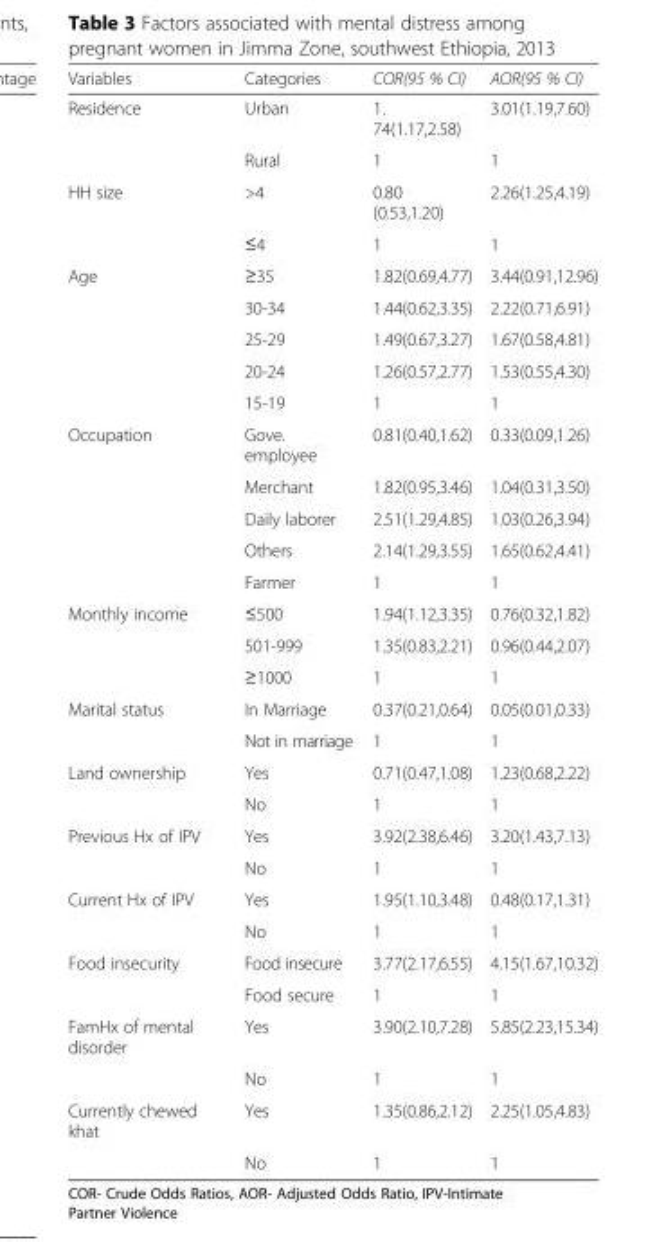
<table><thead><tr><td>Variables</td><td>Categories</td><td>COR(95 % CI)</td><td>AOR(95 % CI)</td></tr></thead><tbody><tr><td rowspan="2">Residence</td><td>Urban</td><td>1. 74(1.17,2.58)</td><td>3.01(1.19,7.60)</td></tr><tr><td>Rural</td><td>1</td><td>1</td></tr><tr><td rowspan="2">HH size</td><td>&gt;4</td><td>0.80 (0.53,1.20)</td><td>2.26(1.25,4.19)</td></tr><tr><td>≤4</td><td>1</td><td>1</td></tr><tr><td rowspan="5">Age</td><td>≥35</td><td>1.82(0.69,4.77)</td><td>3.44(0.91,12.96)</td></tr><tr><td>30-34</td><td>1.44(0.62,3.35)</td><td>2.22(0.71,6.91)</td></tr><tr><td>25-29</td><td>1.49(0.67,3.27)</td><td>1.67(0.58,4.81)</td></tr><tr><td>20-24</td><td>1.26(0.57,2.77)</td><td>1.53(0.55,4.30)</td></tr><tr><td>15-19</td><td>1</td><td>1</td></tr><tr><td rowspan="5">Occupation</td><td>Gove. employee</td><td>0.81(0.40,1.62)</td><td>0.33(0.09,1.26)</td></tr><tr><td>Merchant</td><td>1.82(0.95,3.46)</td><td>1.04(0.31,3.50)</td></tr><tr><td>Daily laborer</td><td>2.51(1.29,4.85)</td><td>1.03(0.26,3.94)</td></tr><tr><td>Others</td><td>2.14(1.29,3.55)</td><td>1.65(0.62,4.41)</td></tr><tr><td>Farmer</td><td>1</td><td>1</td></tr><tr><td rowspan="3">Monthly income</td><td>≤500</td><td>1.94(1.12,3.35)</td><td>0.76(0.32,1.82)</td></tr><tr><td>501-999</td><td>1.35(0.83,2.21)</td><td>0.96(0.44,2.07)</td></tr><tr><td>≥1000</td><td>1</td><td>1</td></tr><tr><td rowspan="2">Marital status</td><td>In Marriage</td><td>0.37(0.21,0.64)</td><td>0.05(0.01,0.33)</td></tr><tr><td>Not in marriage</td><td>1</td><td>1</td></tr><tr><td rowspan="2">Land ownership</td><td>Yes</td><td>0.71(0.47,1.08)</td><td>1.23(0.68,2.22)</td></tr><tr><td>No</td><td>1</td><td>1</td></tr><tr><td rowspan="2">Previous Hx of IPV</td><td>Yes</td><td>3.92(2.38,6.46)</td><td>3.20(1.43,7.13)</td></tr><tr><td>No</td><td>1</td><td>1</td></tr><tr><td rowspan="2">Current Hx of IPV</td><td>Yes</td><td>1.95(1.10,3.48)</td><td>0.48(0.17,1.31)</td></tr><tr><td>No</td><td>1</td><td>1</td></tr><tr><td rowspan="2">Food insecurity</td><td>Food insecure</td><td>3.77(2.17,6.55)</td><td>4.15(1.67,10.32)</td></tr><tr><td>Food secure</td><td>1</td><td>1</td></tr><tr><td rowspan="2">FamHx of mental disorder</td><td>Yes</td><td>3.90(2.10,7.28)</td><td>5.85(2.23,15.34)</td></tr><tr><td>No</td><td>1</td><td>1</td></tr><tr><td rowspan="2">Currently chewed khat</td><td>Yes</td><td>1.35(0.86,2.12)</td><td>2.25(1.05,4.83)</td></tr><tr><td>No</td><td>1</td><td>1</td></tr></tbody></table>